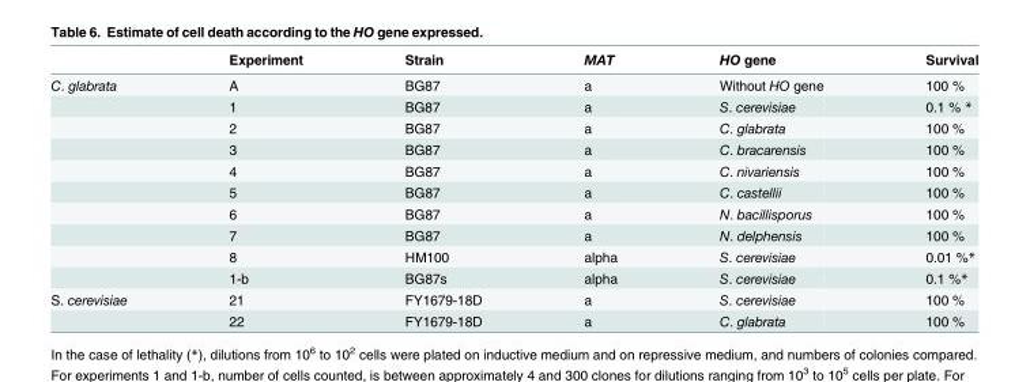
<table><thead><tr><td></td><td>Experiment</td><td>Strain</td><td>MAT</td><td>HO gene</td><td>Survival</td></tr></thead><tbody><tr><td rowspan="10">C. glabrata</td><td>A</td><td>BG87</td><td>a</td><td>Without HO gene</td><td>100 %</td></tr><tr><td>1</td><td>BG87</td><td>a</td><td>S. cerevisiae</td><td>0.1 % *</td></tr><tr><td>2</td><td>BG87</td><td>a</td><td>C. glabrata</td><td>100 %</td></tr><tr><td>3</td><td>BG87</td><td>a</td><td>C. bracarensis</td><td>100 %</td></tr><tr><td>4</td><td>BG87</td><td>a</td><td>C. nivariensis</td><td>100 %</td></tr><tr><td>5</td><td>BG87</td><td>a</td><td>C. castellii</td><td>100 %</td></tr><tr><td>6</td><td>BG87</td><td>a</td><td>N. bacillisporus</td><td>100 %</td></tr><tr><td>7</td><td>BG87</td><td>a</td><td>N. delphensis</td><td>100 %</td></tr><tr><td>8</td><td>HM100</td><td>alpha</td><td>S. cerevisiae</td><td>0.01 %*</td></tr><tr><td>1-b</td><td>BG87s</td><td>alpha</td><td>S. cerevisiae</td><td>0.1 %*</td></tr><tr><td rowspan="2">S. cerevisiae</td><td>21</td><td>FY1679-18D</td><td>a</td><td>S. cerevisiae</td><td>100 %</td></tr><tr><td>22</td><td>FY1679-18D</td><td>a</td><td>C. glabrata</td><td>100 %</td></tr></tbody></table>